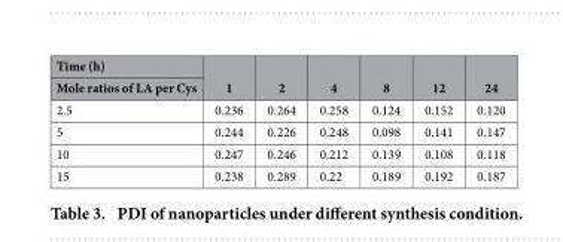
<table><thead><tr><td rowspan="2">Time (h) Mole ratios of LA per Cys</td><td rowspan="2">1</td><td rowspan="2">2</td><td rowspan="2">4</td><td rowspan="2">8</td><td rowspan="2">12</td><td rowspan="2">24</td></tr><tr></tr></thead><tbody><tr><td>2.5</td><td>0.236</td><td>0.264</td><td>0.258</td><td>0.124</td><td>0.152</td><td>0.120</td></tr><tr><td>5</td><td>0.244</td><td>0.226</td><td>0.248</td><td>0.098</td><td>0.141</td><td>0.147</td></tr><tr><td>10</td><td>0.247</td><td>0.246</td><td>0.212</td><td>0.139</td><td>0.108</td><td>0.118</td></tr><tr><td>15</td><td>0.238</td><td>0.289</td><td>0.22</td><td>0.189</td><td>0.192</td><td>0.187</td></tr></tbody></table>